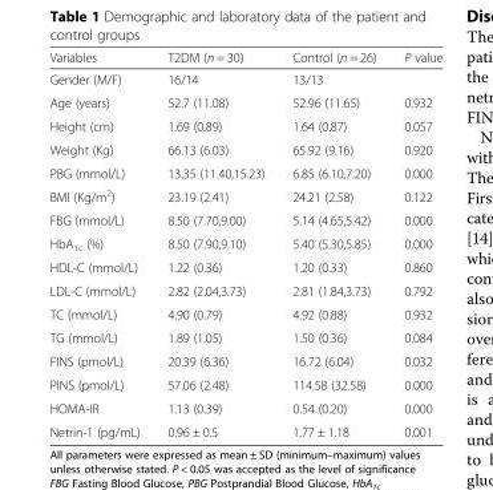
<table><thead><tr><td>Variables</td><td>T2DM (n = 30)</td><td>Control (n = 26)</td><td>P value</td></tr></thead><tbody><tr><td>Gender (M/F)</td><td>16/14</td><td>13/13</td><td></td></tr><tr><td>Age (years)</td><td>52.7 (11.08)</td><td>52.96 (11.65)</td><td>0.932</td></tr><tr><td>Height (cm)</td><td>1.69 (0.89)</td><td>1.64 (0.87)</td><td>0.057</td></tr><tr><td>Weight (Kg)</td><td>66.13 (6.03)</td><td>65.92 (9.16)</td><td>0.920</td></tr><tr><td>PBG (mmol/L)</td><td>13.35 (11.40,15.23)</td><td>6.85 (6.10,7.20)</td><td>0.000</td></tr><tr><td>BMI (Kg/m<sup>2</sup>)</td><td>23.19 (2.41)</td><td>24.21 (2.58)</td><td>0.122</td></tr><tr><td>FBG (mmol/L)</td><td>8.50 (7.70,9.00)</td><td>5.14 (4.65,5.42)</td><td>0.000</td></tr><tr><td>HbA<sub>1c</sub> (%)</td><td>8.50 (7.90,9.10)</td><td>5.40 (5.30,5.85)</td><td>0.000</td></tr><tr><td>HDL-C (mmol/L)</td><td>1.22 (0.36)</td><td>1.20 (0.33)</td><td>0.860</td></tr><tr><td>LDL-C (mmol/L)</td><td>2.82 (2.04,3.73)</td><td>2.81 (1.84,3.73)</td><td>0.792</td></tr><tr><td>TC (mmol/L)</td><td>4.90 (0.79)</td><td>4.92 (0.88)</td><td>0.932</td></tr><tr><td>TG (mmol/L)</td><td>1.89 (1.05)</td><td>1.50 (0.36)</td><td>0.084</td></tr><tr><td>FINS (pmol/L)</td><td>20.39 (6.36)</td><td>16.72 (6.04)</td><td>0.032</td></tr><tr><td>PINS (pmol/L)</td><td>57.06 (2.48)</td><td>114.58 (32.58)</td><td>0.000</td></tr><tr><td>HOMA-IR</td><td>1.13 (0.39)</td><td>0.54 (0.20)</td><td>0.000</td></tr><tr><td>Netrin-1 (pg/mL)</td><td>0.96 ± 0.5</td><td>1.77 ± 1.18</td><td>0.001</td></tr></tbody></table>